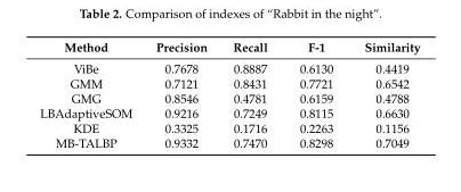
<table><thead><tr><td>Method</td><td>Precision</td><td>Recall</td><td>F-1</td><td>Similarity</td></tr></thead><tbody><tr><td>ViBe</td><td>0.7678</td><td>0.8887</td><td>0.6130</td><td>0.4419</td></tr><tr><td>GMM</td><td>0.7121</td><td>0.8431</td><td>0.7721</td><td>0.6542</td></tr><tr><td>GMG</td><td>0.8546</td><td>0.4781</td><td>0.6159</td><td>0.4788</td></tr><tr><td>LBAdaptiveSOM</td><td>0.9216</td><td>0.7249</td><td>0.8115</td><td>0.6630</td></tr><tr><td>KDE</td><td>0.3325</td><td>0.1716</td><td>0.2263</td><td>0.1156</td></tr><tr><td>MB-TALBP</td><td>0.9332</td><td>0.7470</td><td>0.8298</td><td>0.7049</td></tr></tbody></table>